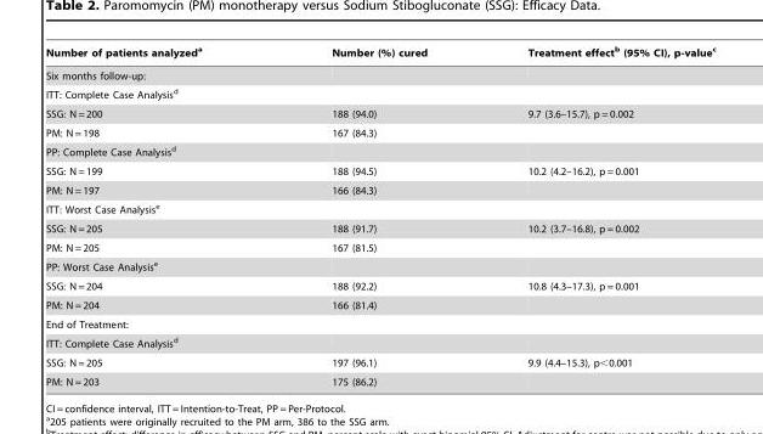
<table><thead><tr><td>Number of patients analyzed<sup>a</sup></td><td>Number (%) cured</td><td>Treatment effect<sup>b</sup> (95% CI), p-value<sup>c</sup></td></tr></thead><tbody><tr><td colspan="3">Six months follow-up:</td></tr><tr><td colspan="3">ITT: Complete Case Analysis<sup>d</sup></td></tr><tr><td>SSG: N = 200</td><td>188 (94.0)</td><td>9.7 (3.6–15.7), p = 0.002</td></tr><tr><td>PM: N = 198</td><td>167 (84.3)</td><td></td></tr><tr><td colspan="3">PP: Complete Case Analysis<sup>d</sup></td></tr><tr><td>SSG: N = 199</td><td>188 (94.5)</td><td>10.2 (4.2–16.2), p = 0.001</td></tr><tr><td>PM: N = 197</td><td>166 (84.3)</td><td></td></tr><tr><td colspan="3">ITT: Worst Case Analysis<sup>e</sup></td></tr><tr><td>SSG: N = 205</td><td>188 (91.7)</td><td>10.2 (3.7–16.8), p = 0.002</td></tr><tr><td>PM: N = 205</td><td>167 (81.5)</td><td></td></tr><tr><td colspan="3">PP: Worst Case Analysis<sup>e</sup></td></tr><tr><td>SSG: N = 204</td><td>188 (92.2)</td><td>10.8 (4.3–17.3), p = 0.001</td></tr><tr><td>PM: N = 204</td><td>166 (81.4)</td><td></td></tr><tr><td colspan="3">End of Treatment:</td></tr><tr><td colspan="3">ITT: Complete Case Analysis<sup>d</sup></td></tr><tr><td>SSG: N = 205</td><td>197 (96.1)</td><td>9.9 (4.4–15.3), p&lt;0.001</td></tr><tr><td>PM: N = 203</td><td>175 (86.2)</td><td></td></tr></tbody></table>